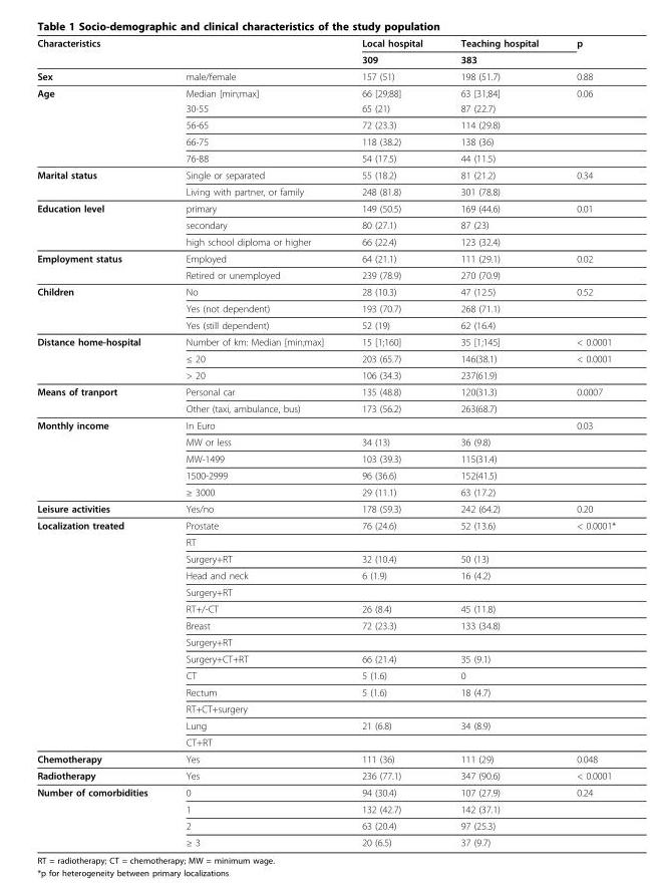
<table><thead><tr><td colspan="2">Characteristics</td><td rowspan="2">Local hospital 309</td><td rowspan="2">Teaching hospital 383</td><td rowspan="2">p</td></tr><tr><td></td><td></td></tr></thead><tbody><tr><td>Sex</td><td>male/female</td><td>157 (51)</td><td>198 (51.7)</td><td>0.88</td></tr><tr><td rowspan="5">Age</td><td>Median [min;max]</td><td>66 [29;88]</td><td>63 [31;84]</td><td>0.06</td></tr><tr><td>30-55</td><td>65 (21)</td><td>87 (22.7)</td><td></td></tr><tr><td>56-65</td><td>72 (23.3)</td><td>114 (29.8)</td><td></td></tr><tr><td>66-75</td><td>118 (38.2)</td><td>138 (36)</td><td></td></tr><tr><td>76-88</td><td>54 (17.5)</td><td>44 (11.5)</td><td></td></tr><tr><td rowspan="2">Marital status</td><td>Single or separated</td><td>55 (18.2)</td><td>81 (21.2)</td><td>0.34</td></tr><tr><td>Living with partner, or family</td><td>248 (81.8)</td><td>301 (78.8)</td><td></td></tr><tr><td rowspan="3">Education level</td><td>primary</td><td>149 (50.5)</td><td>169 (44.6)</td><td>0.01</td></tr><tr><td>secondary</td><td>80 (27.1)</td><td>87 (23)</td><td></td></tr><tr><td>high school diploma or higher</td><td>66 (22.4)</td><td>123 (32.4)</td><td></td></tr><tr><td rowspan="2">Employment status</td><td>Employed</td><td>64 (21.1)</td><td>111 (29.1)</td><td>0.02</td></tr><tr><td>Retired or unemployed</td><td>239 (78.9)</td><td>270 (70.9)</td><td></td></tr><tr><td rowspan="3">Children</td><td>No</td><td>28 (10.3)</td><td>47 (12.5)</td><td>0.52</td></tr><tr><td>Yes (not dependent)</td><td>193 (70.7)</td><td>268 (71.1)</td><td></td></tr><tr><td>Yes (still dependent)</td><td>52 (19)</td><td>62 (16.4)</td><td></td></tr><tr><td rowspan="3">Distance home-hospital</td><td>Number of km: Median [min;max]</td><td>15 [1;160]</td><td>35 [1;145]</td><td>&lt; 0.0001</td></tr><tr><td>≤ 20</td><td>203 (65.7)</td><td>146(38.1)</td><td>&lt; 0.0001</td></tr><tr><td>&gt; 20</td><td>106 (34.3)</td><td>237(61.9)</td><td></td></tr><tr><td rowspan="2">Means of tranport</td><td>Personal car</td><td>135 (48.8)</td><td>120(31.3)</td><td>0.0007</td></tr><tr><td>Other (taxi, ambulance, bus)</td><td>173 (56.2)</td><td>263(68.7)</td><td></td></tr><tr><td rowspan="5">Monthly income</td><td>In Euro</td><td></td><td></td><td>0.03</td></tr><tr><td>MW or less</td><td>34 (13)</td><td>36 (9.8)</td><td></td></tr><tr><td>MW-1499</td><td>103 (39.3)</td><td>115(31.4)</td><td></td></tr><tr><td>1500-2999</td><td>96 (36.6)</td><td>152(41.5)</td><td></td></tr><tr><td>≥ 3000</td><td>29 (11.1)</td><td>63 (17.2)</td><td></td></tr><tr><td>Leisure activities</td><td>Yes/no</td><td>178 (59.3)</td><td>242 (64.2)</td><td>0.20</td></tr><tr><td rowspan="14">Localization treated</td><td>Prostate</td><td>76 (24.6)</td><td>52 (13.6)</td><td>&lt; 0.0001*</td></tr><tr><td>RT</td><td></td><td></td><td></td></tr><tr><td>Surgery+RT</td><td>32 (10.4)</td><td>50 (13)</td><td></td></tr><tr><td>Head and neck</td><td>6 (1.9)</td><td>16 (4.2)</td><td></td></tr><tr><td>Surgery+RT</td><td></td><td></td><td></td></tr><tr><td>RT+/-CT</td><td>26 (8.4)</td><td>45 (11.8)</td><td></td></tr><tr><td>Breast</td><td>72 (23.3)</td><td>133 (34.8)</td><td></td></tr><tr><td>Surgery+RT</td><td></td><td></td><td></td></tr><tr><td>Surgery+CT+RT</td><td>66 (21.4)</td><td>35 (9.1)</td><td></td></tr><tr><td>CT</td><td>5 (1.6)</td><td>0</td><td></td></tr><tr><td>Rectum</td><td>5 (1.6)</td><td>18 (4.7)</td><td></td></tr><tr><td>RT+CT+surgery</td><td></td><td></td><td></td></tr><tr><td>Lung</td><td>21 (6.8)</td><td>34 (8.9)</td><td></td></tr><tr><td>CT+RT</td><td></td><td></td><td></td></tr><tr><td>Chemotherapy</td><td>Yes</td><td>111 (36)</td><td>111 (29)</td><td>0.048</td></tr><tr><td>Radiotherapy</td><td>Yes</td><td>236 (77.1)</td><td>347 (90.6)</td><td>&lt; 0.0001</td></tr><tr><td rowspan="4">Number of comorbidities</td><td>0</td><td>94 (30.4)</td><td>107 (27.9)</td><td>0.24</td></tr><tr><td>1</td><td>132 (42.7)</td><td>142 (37.1)</td><td></td></tr><tr><td>2</td><td>63 (20.4)</td><td>97 (25.3)</td><td></td></tr><tr><td>≥ 3</td><td>20 (6.5)</td><td>37 (9.7)</td><td></td></tr></tbody></table>